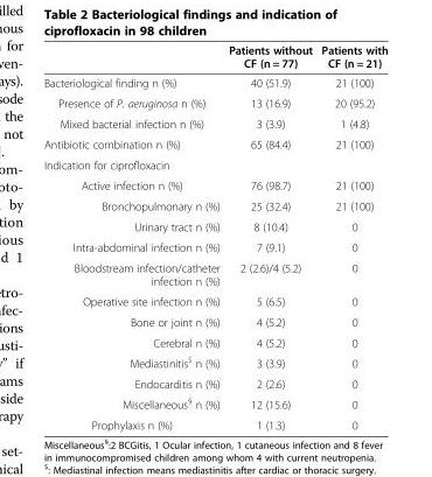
<table><thead><tr><td></td><td>Patients without CF (n = 77)</td><td>Patients with CF (n = 21)</td></tr></thead><tbody><tr><td>Bacteriological finding n (%)</td><td>40 (51.9)</td><td>21 (100)</td></tr><tr><td>Presence of P. aeruginosa n (%)</td><td>13 (16.9)</td><td>20 (95.2)</td></tr><tr><td>Mixed bacterial infection n (%)</td><td>3 (3.9)</td><td>1 (4.8)</td></tr><tr><td>Antibiotic combination n (%)</td><td>65 (84.4)</td><td>21 (100)</td></tr><tr><td colspan="3">Indication for ciprofloxacin</td></tr><tr><td>Active infection n (%)</td><td>76 (98.7)</td><td>21 (100)</td></tr><tr><td>Bronchopulmonary n (%)</td><td>25 (32.4)</td><td>21 (100)</td></tr><tr><td>Urinary tract n (%)</td><td>8 (10.4)</td><td>0</td></tr><tr><td>Intra-abdominal infection n (%)</td><td>7 (9.1)</td><td>0</td></tr><tr><td>Bloodstream infection/catheter infection n (%)</td><td>2 (2.6)/4 (5.2)</td><td>0</td></tr><tr><td>Operative site infection n (%)</td><td>5 (6.5)</td><td>0</td></tr><tr><td>Bone or joint n (%)</td><td>4 (5.2)</td><td>0</td></tr><tr><td>Cerebral n (%)</td><td>4 (5.2)</td><td>0</td></tr><tr><td>Mediastinitis<sup>$</sup> n (%)</td><td>3 (3.9)</td><td>0</td></tr><tr><td>Endocarditis n (%)</td><td>2 (2.6)</td><td>0</td></tr><tr><td>Miscellaneous<sup>§</sup> n (%)</td><td>12 (15.6)</td><td>0</td></tr><tr><td>Prophylaxis n (%)</td><td>1 (1.3)</td><td>0</td></tr></tbody></table>